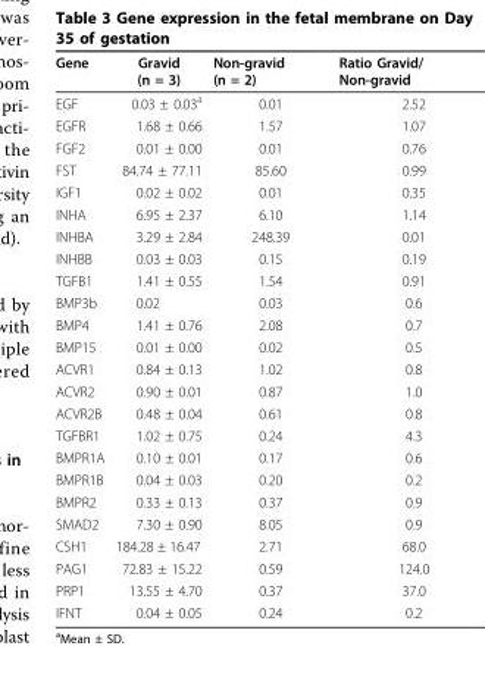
<table><thead><tr><td>Gene</td><td>Gravid (n = 3)</td><td>Non-gravid (n = 2)</td><td>Ratio Gravid/ Non-gravid</td></tr></thead><tbody><tr><td>EGF</td><td>0.03 ± 0.03<sup>a</sup></td><td>0.01</td><td>2.52</td></tr><tr><td>EGFR</td><td>1.68 ± 0.66</td><td>1.57</td><td>1.07</td></tr><tr><td>FGF2</td><td>0.01 ± 0.00</td><td>0.01</td><td>0.76</td></tr><tr><td>FST</td><td>84.74 ± 77.11</td><td>85.60</td><td>0.99</td></tr><tr><td>IGF1</td><td>0.02 ± 0.02</td><td>0.01</td><td>0.35</td></tr><tr><td>INHA</td><td>6.95 ± 2.37</td><td>6.10</td><td>1.14</td></tr><tr><td>INHBA</td><td>3.29 ± 2.84</td><td>248.39</td><td>0.01</td></tr><tr><td>INHBB</td><td>0.03 ± 0.03</td><td>0.15</td><td>0.19</td></tr><tr><td>TGFB1</td><td>1.41 ± 0.55</td><td>1.54</td><td>0.91</td></tr><tr><td>BMP3b</td><td>0.02</td><td>0.03</td><td>0.6</td></tr><tr><td>BMP4</td><td>1.41 ± 0.76</td><td>2.08</td><td>0.7</td></tr><tr><td>BMP15</td><td>0.01 ± 0.00</td><td>0.02</td><td>0.5</td></tr><tr><td>ACVR1</td><td>0.84 ± 0.13</td><td>1.02</td><td>0.8</td></tr><tr><td>ACVR2</td><td>0.90 ± 0.01</td><td>0.87</td><td>1.0</td></tr><tr><td>ACVR2B</td><td>0.48 ± 0.04</td><td>0.61</td><td>0.8</td></tr><tr><td>TGFBR1</td><td>1.02 ± 0.75</td><td>0.24</td><td>4.3</td></tr><tr><td>BMPR1A</td><td>0.10 ± 0.01</td><td>0.17</td><td>0.6</td></tr><tr><td>BMPR1B</td><td>0.04 ± 0.03</td><td>0.20</td><td>0.2</td></tr><tr><td>BMPR2</td><td>0.33 ± 0.13</td><td>0.37</td><td>0.9</td></tr><tr><td>SMAD2</td><td>7.30 ± 0.90</td><td>8.05</td><td>0.9</td></tr><tr><td>CSH1</td><td>184.28 ± 16.47</td><td>2.71</td><td>68.0</td></tr><tr><td>PAG1</td><td>72.83 ± 15.22</td><td>0.59</td><td>124.0</td></tr><tr><td>PRP1</td><td>13.55 ± 4.70</td><td>0.37</td><td>37.0</td></tr><tr><td>IFNT</td><td>0.04 ± 0.05</td><td>0.24</td><td>0.2</td></tr></tbody></table>